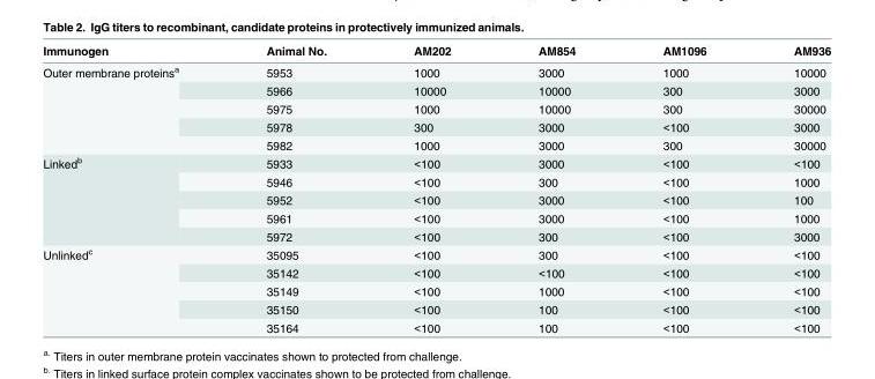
<table><thead><tr><td>Immunogen</td><td>Animal No.</td><td>AM202</td><td>AM854</td><td>AM1096</td><td>AM936</td></tr></thead><tbody><tr><td rowspan="5">Outer membrane proteins<sup>a</sup></td><td>5953</td><td>1000</td><td>3000</td><td>1000</td><td>10000</td></tr><tr><td>5966</td><td>10000</td><td>10000</td><td>300</td><td>3000</td></tr><tr><td>5975</td><td>1000</td><td>10000</td><td>300</td><td>30000</td></tr><tr><td>5978</td><td>300</td><td>3000</td><td>&lt;100</td><td>3000</td></tr><tr><td>5982</td><td>1000</td><td>3000</td><td>300</td><td>30000</td></tr><tr><td rowspan="5">Linked<sup>b</sup></td><td>5933</td><td>&lt;100</td><td>3000</td><td>&lt;100</td><td>&lt;100</td></tr><tr><td>5946</td><td>&lt;100</td><td>300</td><td>&lt;100</td><td>1000</td></tr><tr><td>5952</td><td>&lt;100</td><td>3000</td><td>&lt;100</td><td>100</td></tr><tr><td>5961</td><td>&lt;100</td><td>3000</td><td>&lt;100</td><td>1000</td></tr><tr><td>5972</td><td>&lt;100</td><td>300</td><td>&lt;100</td><td>3000</td></tr><tr><td rowspan="5">Unlinked<sup>c</sup></td><td>35095</td><td>&lt;100</td><td>300</td><td>&lt;100</td><td>&lt;100</td></tr><tr><td>35142</td><td>&lt;100</td><td>&lt;100</td><td>&lt;100</td><td>&lt;100</td></tr><tr><td>35149</td><td>&lt;100</td><td>1000</td><td>&lt;100</td><td>&lt;100</td></tr><tr><td>35150</td><td>&lt;100</td><td>100</td><td>&lt;100</td><td>&lt;100</td></tr><tr><td>35164</td><td>&lt;100</td><td>100</td><td>&lt;100</td><td>&lt;100</td></tr></tbody></table>